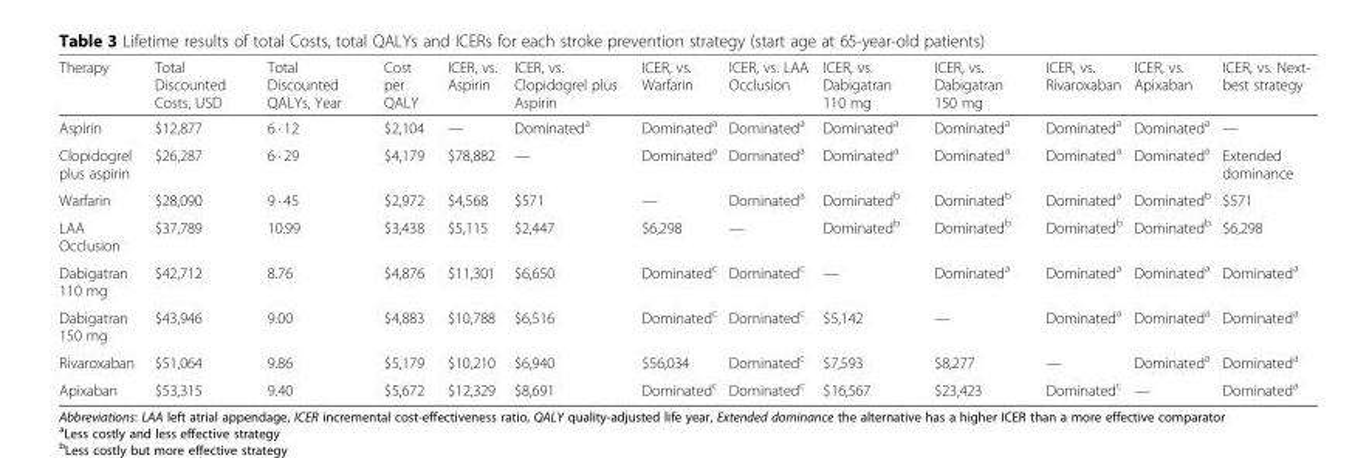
<table><thead><tr><td>Therapy</td><td>Total Discounted Costs, USD</td><td>Total Discounted QALYs, Year</td><td>Cost per QALY</td><td>ICER, vs. Aspirin</td><td>ICER, vs. Clopidogrel plus Aspirin</td><td>ICER, vs. Warfarin</td><td>ICER, vs. LAA Occlusion</td><td>ICER, vs. Dabigatran 110 mg</td><td>ICER, vs. Dabigatran 150 mg</td><td>ICER, vs. Rivaroxaban</td><td>ICER, vs. Apixaban</td><td>ICER, vs. Next- best strategy</td></tr></thead><tbody><tr><td>Aspirin</td><td>$12,877</td><td>6 · 12</td><td>$2,104</td><td>—</td><td>Dominated<sup>a</sup></td><td>Dominated<sup>a</sup></td><td>Dominated<sup>a</sup></td><td>Dominated<sup>a</sup></td><td>Dominated<sup>a</sup></td><td>Dominated<sup>a</sup></td><td>Dominated<sup>a</sup></td><td>—</td></tr><tr><td>Clopidogrel plus aspirin</td><td>$26,287</td><td>6 · 29</td><td>$4,179</td><td>$78,882</td><td>—</td><td>Dominated<sup>a</sup></td><td>Dominated<sup>a</sup></td><td>Dominated<sup>a</sup></td><td>Dominated<sup>a</sup></td><td>Dominated<sup>a</sup></td><td>Dominated<sup>a</sup></td><td>Extended dominance</td></tr><tr><td>Warfarin</td><td>$28,090</td><td>9 · 45</td><td>$2,972</td><td>$4,568</td><td>$571</td><td>—</td><td>Dominated<sup>a</sup></td><td>Dominated<sup>b</sup></td><td>Dominated<sup>b</sup></td><td>Dominated<sup>a</sup></td><td>Dominated<sup>b</sup></td><td>$571</td></tr><tr><td>LAA Occlusion</td><td>$37,789</td><td>10.99</td><td>$3,438</td><td>$5,115</td><td>$2,447</td><td>$6,298</td><td>—</td><td>Dominated<sup>b</sup></td><td>Dominated<sup>b</sup></td><td>Dominated<sup>b</sup></td><td>Dominated<sup>b</sup></td><td>$6,298</td></tr><tr><td>Dabigatran 110 mg</td><td>$42,712</td><td>8.76</td><td>$4,876</td><td>$11,301</td><td>$6,650</td><td>Dominated<sup>c</sup></td><td>Dominated<sup>c</sup></td><td>—</td><td>Dominated<sup>a</sup></td><td>Dominated<sup>a</sup></td><td>Dominated<sup>a</sup></td><td>Dominated<sup>a</sup></td></tr><tr><td>Dabigatran 150 mg</td><td>$43,946</td><td>9.00</td><td>$4,883</td><td>$10,788</td><td>$6,516</td><td>Dominated<sup>c</sup></td><td>Dominated<sup>c</sup></td><td>$5,142</td><td>—</td><td>Dominated<sup>a</sup></td><td>Dominated<sup>a</sup></td><td>Dominated<sup>a</sup></td></tr><tr><td>Rivaroxaban</td><td>$51,064</td><td>9.86</td><td>$5,179</td><td>$10,210</td><td>$6,940</td><td>$56,034</td><td>Dominated<sup>c</sup></td><td>$7,593</td><td>$8,277</td><td>—</td><td>Dominated<sup>a</sup></td><td>Dominated<sup>a</sup></td></tr><tr><td>Apixaban</td><td>$53,315</td><td>9.40</td><td>$5,672</td><td>$12,329</td><td>$8,691</td><td>Dominated<sup>c</sup></td><td>Dominated<sup>c</sup></td><td>$16,567</td><td>$23,423</td><td>Dominated<sup>c</sup></td><td>—</td><td>Dominated<sup>a</sup></td></tr></tbody></table>